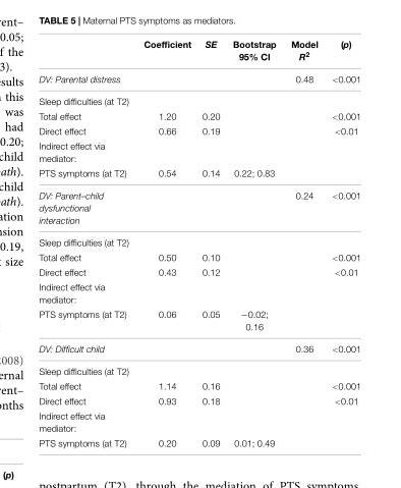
<table><thead><tr><td></td><td>Coefficient</td><td>SE</td><td>Bootstrap 95% CI</td><td>Model R<sup>2</sup></td><td>(p)</td></tr></thead><tbody><tr><td>DV: Parental distress</td><td></td><td></td><td></td><td>0.48</td><td>&lt;0.001</td></tr><tr><td colspan="6">Sleep difficulties (at T2)</td></tr><tr><td>Total effect</td><td>1.20</td><td>0.20</td><td></td><td></td><td>&lt;0.001</td></tr><tr><td>Direct effect</td><td>0.66</td><td>0.19</td><td></td><td></td><td>&lt;0.01</td></tr><tr><td colspan="6">Indirect effect via mediator:</td></tr><tr><td>PTS symptoms (at T2)</td><td>0.54</td><td>0.14</td><td>0.22; 0.83</td><td></td><td></td></tr><tr><td>DV: Parent–child dysfunctional interaction</td><td></td><td></td><td></td><td>0.24</td><td>&lt;0.001</td></tr><tr><td colspan="6">Sleep difficulties (at T2)</td></tr><tr><td>Total effect</td><td>0.50</td><td>0.10</td><td></td><td></td><td>&lt;0.001</td></tr><tr><td>Direct effect</td><td>0.43</td><td>0.12</td><td></td><td></td><td>&lt;0.01</td></tr><tr><td colspan="6">Indirect effect via mediator:</td></tr><tr><td>PTS symptoms (at T2)</td><td>0.06</td><td>0.05</td><td>−0.02; 0.16</td><td></td><td></td></tr><tr><td>DV: Difficult child</td><td></td><td></td><td></td><td>0.36</td><td>&lt;0.001</td></tr><tr><td colspan="6">Sleep difficulties (at T2)</td></tr><tr><td>Total effect</td><td>1.14</td><td>0.16</td><td></td><td></td><td>&lt;0.001</td></tr><tr><td>Direct effect</td><td>0.93</td><td>0.18</td><td></td><td></td><td>&lt;0.01</td></tr><tr><td colspan="6">Indirect effect via mediator:</td></tr><tr><td>PTS symptoms (at T2)</td><td>0.20</td><td>0.09</td><td>0.01; 0.49</td><td></td><td></td></tr></tbody></table>